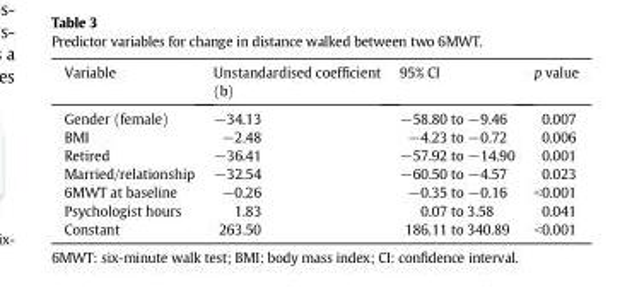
<table><thead><tr><td>Variable</td><td>Unstandardised coefficient (b)</td><td>95% CI</td><td>p value</td></tr></thead><tbody><tr><td>Gender (female)</td><td>−34.13</td><td>−58.80 to −9.46</td><td>0.007</td></tr><tr><td>BMI</td><td>−2.48</td><td>−4.23 to −0.72</td><td>0.006</td></tr><tr><td>Retired</td><td>−36.41</td><td>−57.92 to −14.90</td><td>0.001</td></tr><tr><td>Married/relationship</td><td>−32.54</td><td>−60.50 to −4.57</td><td>0.023</td></tr><tr><td>6MWT at baseline</td><td>−0.26</td><td>−0.35 to −0.16</td><td>&lt;0.001</td></tr><tr><td>Psychologist hours</td><td>1.83</td><td>0.07 to 3.58</td><td>0.041</td></tr><tr><td>Constant</td><td>263.50</td><td>186.11 to 340.89</td><td>&lt;0.001</td></tr></tbody></table>